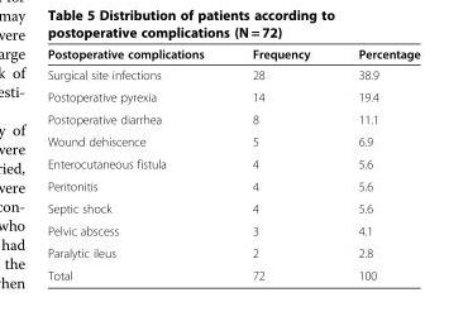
<table><thead><tr><td>Postoperative complications</td><td>Frequency</td><td>Percentage</td></tr></thead><tbody><tr><td>Surgical site infections</td><td>28</td><td>38.9</td></tr><tr><td>Postoperative pyrexia</td><td>14</td><td>19.4</td></tr><tr><td>Postoperative diarrhea</td><td>8</td><td>11.1</td></tr><tr><td>Wound dehiscence</td><td>5</td><td>6.9</td></tr><tr><td>Enterocutaneous fistula</td><td>4</td><td>5.6</td></tr><tr><td>Peritonitis</td><td>4</td><td>5.6</td></tr><tr><td>Septic shock</td><td>4</td><td>5.6</td></tr><tr><td>Pelvic abscess</td><td>3</td><td>4.1</td></tr><tr><td>Paralytic ileus</td><td>2</td><td>2.8</td></tr><tr><td>Total</td><td>72</td><td>100</td></tr></tbody></table>